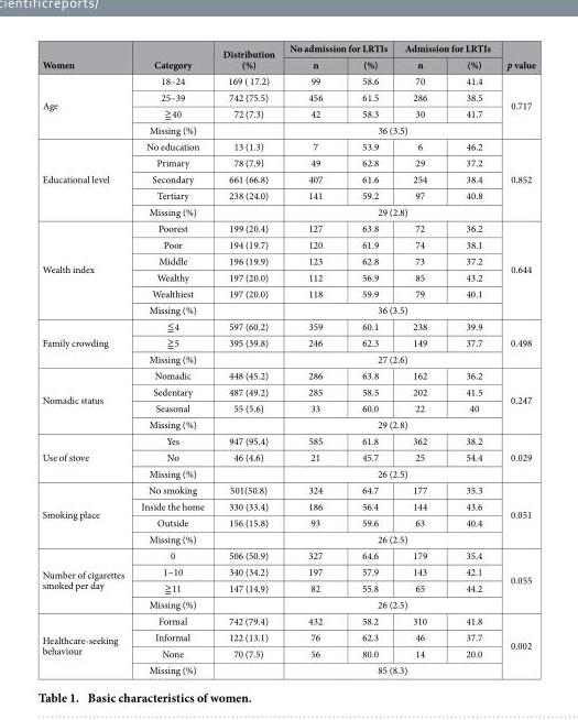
<table><thead><tr><td rowspan="2">Women</td><td rowspan="2">Category</td><td rowspan="2">Distribution (%)</td><td colspan="2">No admission for LRTIs</td><td colspan="2">Admission for LRTIs</td><td rowspan="2">p value</td></tr><tr><td>n</td><td>(%)</td><td>n</td><td>(%)</td></tr></thead><tbody><tr><td rowspan="4">Age</td><td>18–24</td><td>169 ( 17.2)</td><td>99</td><td>58.6</td><td>70</td><td>41.4</td><td rowspan="4">0.717</td></tr><tr><td>25–39</td><td>742 (75.5)</td><td>456</td><td>61.5</td><td>286</td><td>38.5</td></tr><tr><td>≧ 40</td><td>72 (7.3)</td><td>42</td><td>58.3</td><td>30</td><td>41.7</td></tr><tr><td>Missing (%)</td><td></td><td colspan="4">36 (3.5)</td></tr><tr><td rowspan="5">Educational level</td><td>No education</td><td>13 (1.3)</td><td>7</td><td>53.9</td><td>6</td><td>46.2</td><td rowspan="5">0.852</td></tr><tr><td>Primary</td><td>78 (7.9)</td><td>49</td><td>62.8</td><td>29</td><td>37.2</td></tr><tr><td>Secondary</td><td>661 (66.8)</td><td>407</td><td>61.6</td><td>254</td><td>38.4</td></tr><tr><td>Tertiary</td><td>238 (24.0)</td><td>141</td><td>59.2</td><td>97</td><td>40.8</td></tr><tr><td>Missing (%)</td><td></td><td colspan="4">29 (2.8)</td></tr><tr><td rowspan="6">Wealth index</td><td>Poorest</td><td>199 (20.4)</td><td>127</td><td>63.8</td><td>72</td><td>36.2</td><td rowspan="6">0.644</td></tr><tr><td>Poor</td><td>194 (19.7)</td><td>120</td><td>61.9</td><td>74</td><td>38.1</td></tr><tr><td>Middle</td><td>196 (19.9)</td><td>123</td><td>62.8</td><td>73</td><td>37.2</td></tr><tr><td>Wealthy</td><td>197 (20.0)</td><td>112</td><td>56.9</td><td>85</td><td>43.2</td></tr><tr><td>Wealthiest</td><td>197 (20.0)</td><td>118</td><td>59.9</td><td>79</td><td>40.1</td></tr><tr><td>Missing (%)</td><td></td><td colspan="4">36 (3.5)</td></tr><tr><td rowspan="3">Family crowding</td><td>≦ 4</td><td>597 (60.2)</td><td>359</td><td>60.1</td><td>238</td><td>39.9</td><td rowspan="3">0.498</td></tr><tr><td>≧ 5</td><td>395 (39.8)</td><td>246</td><td>62.3</td><td>149</td><td>37.7</td></tr><tr><td>Missing (%)</td><td></td><td colspan="4">27 (2.6)</td></tr><tr><td rowspan="4">Nomadic status</td><td>Nomadic</td><td>448 (45.2)</td><td>286</td><td>63.8</td><td>162</td><td>36.2</td><td rowspan="4">0.247</td></tr><tr><td>Sedentary</td><td>487 (49.2)</td><td>285</td><td>58.5</td><td>202</td><td>41.5</td></tr><tr><td>Seasonal</td><td>55 (5.6)</td><td>33</td><td>60.0</td><td>22</td><td>40</td></tr><tr><td>Missing (%)</td><td></td><td colspan="4">29 (2.8)</td></tr><tr><td rowspan="3">Use of stove</td><td>Yes</td><td>947 (95.4)</td><td>585</td><td>61.8</td><td>362</td><td>38.2</td><td rowspan="3">0.029</td></tr><tr><td>No</td><td>46 (4.6)</td><td>21</td><td>45.7</td><td>25</td><td>54.4</td></tr><tr><td>Missing (%)</td><td></td><td colspan="4">26 (2.5)</td></tr><tr><td rowspan="4">Smoking place</td><td>No smoking</td><td>501(50.8)</td><td>324</td><td>64.7</td><td>177</td><td>35.3</td><td rowspan="4">0.051</td></tr><tr><td>Inside the home</td><td>330 (33.4)</td><td>186</td><td>56.4</td><td>144</td><td>43.6</td></tr><tr><td>Outside</td><td>156 (15.8)</td><td>93</td><td>59.6</td><td>63</td><td>40.4</td></tr><tr><td>Missing (%)</td><td></td><td colspan="4">26 (2.5)</td></tr><tr><td rowspan="4">Number of cigarettes smoked per day</td><td>0</td><td>506 (50.9)</td><td>327</td><td>64.6</td><td>179</td><td>35.4</td><td rowspan="4">0.055</td></tr><tr><td>1~10</td><td>340 (34.2)</td><td>197</td><td>57.9</td><td>143</td><td>42.1</td></tr><tr><td>≧ 11</td><td>147 (14.9)</td><td>82</td><td>55.8</td><td>65</td><td>44.2</td></tr><tr><td>Missing (%)</td><td></td><td colspan="4">26 (2.5)</td></tr><tr><td rowspan="4">Healthcare-seeking behaviour</td><td>Formal</td><td>742 (79.4)</td><td>432</td><td>58.2</td><td>310</td><td>41.8</td><td rowspan="4">0.002</td></tr><tr><td>Informal</td><td>122 (13.1)</td><td>76</td><td>62.3</td><td>46</td><td>37.7</td></tr><tr><td>None</td><td>70 (7.5)</td><td>56</td><td>80.0</td><td>14</td><td>20.0</td></tr><tr><td>Missing (%)</td><td></td><td colspan="4">85 (8.3)</td></tr></tbody></table>